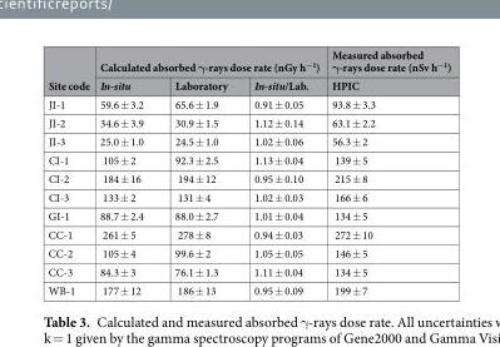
<table><thead><tr><td rowspan="2">Site code</td><td colspan="3">Calculated absorbed γ-rays dose rate (nGy h<sup>−1</sup>)</td><td rowspan="2">Measured absorbed γ-rays dose rate (nSv h<sup>−1</sup>) HPIC</td></tr><tr><td>In-situ</td><td>Laboratory</td><td>In-situ/Lab.</td></tr></thead><tbody><tr><td>JI-1</td><td>59.6 ± 3.2</td><td>65.6 ± 1.9</td><td>0.91 ± 0.05</td><td>93.8 ± 3.3</td></tr><tr><td>JI-2</td><td>34.6 ± 3.9</td><td>30.9 ± 1.5</td><td>1.12 ± 0.14</td><td>63.1 ± 2.2</td></tr><tr><td>JI-3</td><td>25.0 ± 1.0</td><td>24.5 ± 1.0</td><td>1.02 ± 0.06</td><td>56.3 ± 2</td></tr><tr><td>CI-1</td><td>105 ± 2</td><td>92.3 ± 2.5</td><td>1.13 ± 0.04</td><td>139 ± 5</td></tr><tr><td>CI-2</td><td>184 ± 16</td><td>194 ± 12</td><td>0.95 ± 0.10</td><td>215 ± 8</td></tr><tr><td>CI-3</td><td>133 ± 2</td><td>131 ± 4</td><td>1.02 ± 0.03</td><td>166 ± 6</td></tr><tr><td>GI-1</td><td>88.7 ± 2.4</td><td>88.0 ± 2.7</td><td>1.01 ± 0.04</td><td>134 ± 5</td></tr><tr><td>CC-1</td><td>261 ± 5</td><td>278 ± 8</td><td>0.94 ± 0.03</td><td>272 ± 10</td></tr><tr><td>CC-2</td><td>105 ± 4</td><td>99.6 ± 2</td><td>1.05 ± 0.05</td><td>146 ± 5</td></tr><tr><td>CC-3</td><td>84.3 ± 3</td><td>76.1 ± 1.3</td><td>1.11 ± 0.04</td><td>134 ± 5</td></tr><tr><td>WB-1</td><td>177 ± 12</td><td>186 ± 13</td><td>0.95 ± 0.09</td><td>199 ± 7</td></tr></tbody></table>